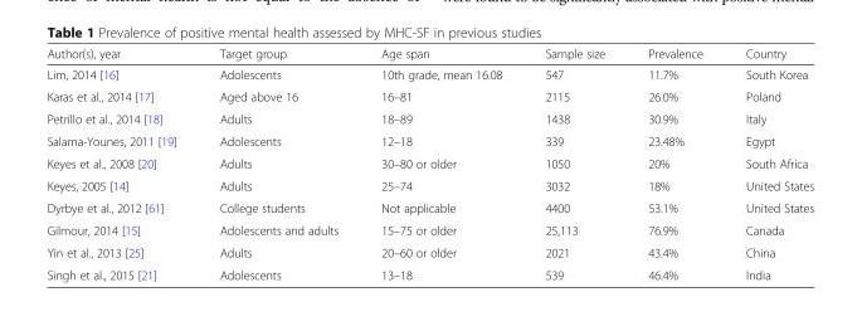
<table><thead><tr><td>Author(s), year</td><td>Target group</td><td>Age span</td><td>Sample size</td><td>Prevalence</td><td>Country</td></tr></thead><tbody><tr><td>Lim, 2014 [16]</td><td>Adolescents</td><td>10th grade, mean 16.08</td><td>547</td><td>11.7%</td><td>South Korea</td></tr><tr><td>Karas et al., 2014 [17]</td><td>Aged above 16</td><td>16–81</td><td>2115</td><td>26.0%</td><td>Poland</td></tr><tr><td>Petrillo et al., 2014 [18]</td><td>Adults</td><td>18–89</td><td>1438</td><td>30.9%</td><td>Italy</td></tr><tr><td>Salama-Younes, 2011 [19]</td><td>Adolescents</td><td>12–18</td><td>339</td><td>23.48%</td><td>Egypt</td></tr><tr><td>Keyes et al., 2008 [20]</td><td>Adults</td><td>30–80 or older</td><td>1050</td><td>20%</td><td>South Africa</td></tr><tr><td>Keyes, 2005 [14]</td><td>Adults</td><td>25–74</td><td>3032</td><td>18%</td><td>United States</td></tr><tr><td>Dyrbye et al., 2012 [61]</td><td>College students</td><td>Not applicable</td><td>4400</td><td>53.1%</td><td>United States</td></tr><tr><td>Gilmour, 2014 [15]</td><td>Adolescents and adults</td><td>15–75 or older</td><td>25,113</td><td>76.9%</td><td>Canada</td></tr><tr><td>Yin et al., 2013 [25]</td><td>Adults</td><td>20–60 or older</td><td>2021</td><td>43.4%</td><td>China</td></tr><tr><td>Singh et al., 2015 [21]</td><td>Adolescents</td><td>13–18</td><td>539</td><td>46.4%</td><td>India</td></tr></tbody></table>